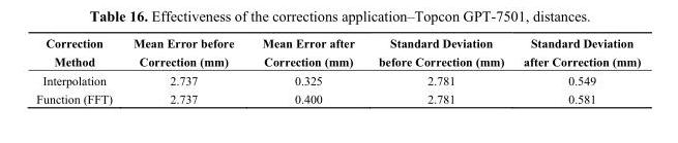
<table><thead><tr><td>Correction Method</td><td>Mean Error before Correction (mm)</td><td>Mean Error after Correction (mm)</td><td>Standard Deviation before Correction (mm)</td><td>Standard Deviation after Correction (mm)</td></tr></thead><tbody><tr><td>Interpolation</td><td>2.737</td><td>0.325</td><td>2.781</td><td>0.549</td></tr><tr><td>Function (FFT)</td><td>2.737</td><td>0.400</td><td>2.781</td><td>0.581</td></tr></tbody></table>